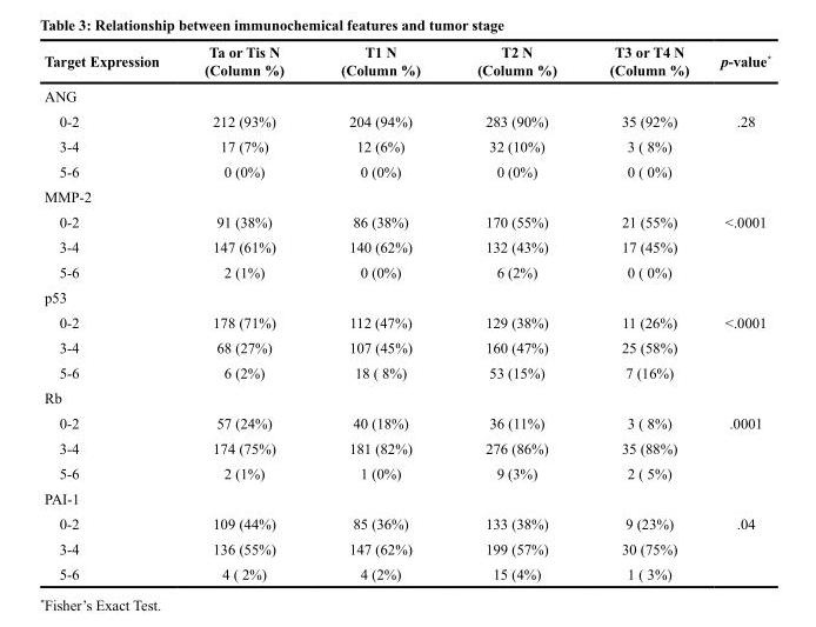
<table><thead><tr><td>Target Expression</td><td>Ta or Tis N (Column %)</td><td>T1 N (Column %)</td><td>T2 N (Column %)</td><td>T3 or T4 N (Column %)</td><td>p-value*</td></tr></thead><tbody><tr><td colspan="6">ANG</td></tr><tr><td>0-2</td><td>212 (93%)</td><td>204 (94%)</td><td>283 (90%)</td><td>35 (92%)</td><td>.28</td></tr><tr><td>3-4</td><td>17 (7%)</td><td>12 (6%)</td><td>32 (10%)</td><td>3 ( 8%)</td><td></td></tr><tr><td>5-6</td><td>0 (0%)</td><td>0 (0%)</td><td>0 (0%)</td><td>0 ( 0%)</td><td></td></tr><tr><td colspan="6">MMP-2</td></tr><tr><td>0-2</td><td>91 (38%)</td><td>86 (38%)</td><td>170 (55%)</td><td>21 (55%)</td><td>&lt;.0001</td></tr><tr><td>3-4</td><td>147 (61%)</td><td>140 (62%)</td><td>132 (43%)</td><td>17 (45%)</td><td></td></tr><tr><td>5-6</td><td>2 (1%)</td><td>0 (0%)</td><td>6 (2%)</td><td>0 ( 0%)</td><td></td></tr><tr><td colspan="6">p53</td></tr><tr><td>0-2</td><td>178 (71%)</td><td>112 (47%)</td><td>129 (38%)</td><td>11 (26%)</td><td>&lt;.0001</td></tr><tr><td>3-4</td><td>68 (27%)</td><td>107 (45%)</td><td>160 (47%)</td><td>25 (58%)</td><td></td></tr><tr><td>5-6</td><td>6 (2%)</td><td>18 ( 8%)</td><td>53 (15%)</td><td>7 (16%)</td><td></td></tr><tr><td colspan="6">Rb</td></tr><tr><td>0-2</td><td>57 (24%)</td><td>40 (18%)</td><td>36 (11%)</td><td>3 ( 8%)</td><td>.0001</td></tr><tr><td>3-4</td><td>174 (75%)</td><td>181 (82%)</td><td>276 (86%)</td><td>35 (88%)</td><td></td></tr><tr><td>5-6</td><td>2 (1%)</td><td>1 (0%)</td><td>9 (3%)</td><td>2 ( 5%)</td><td></td></tr><tr><td colspan="6">PAI-1</td></tr><tr><td>0-2</td><td>109 (44%)</td><td>85 (36%)</td><td>133 (38%)</td><td>9 (23%)</td><td>.04</td></tr><tr><td>3-4</td><td>136 (55%)</td><td>147 (62%)</td><td>199 (57%)</td><td>30 (75%)</td><td></td></tr><tr><td>5-6</td><td>4 ( 2%)</td><td>4 (2%)</td><td>15 (4%)</td><td>1 ( 3%)</td><td></td></tr></tbody></table>